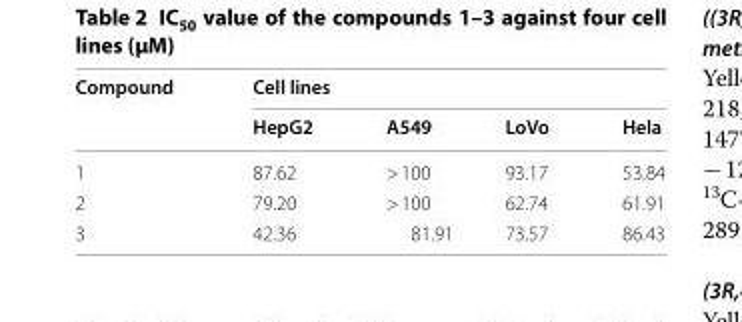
<table><thead><tr><td rowspan="2">Compound</td><td colspan="4">Cell lines</td></tr><tr><td>HepG2</td><td>A549</td><td>LoVo</td><td>Hela</td></tr></thead><tbody><tr><td>1</td><td>87.62</td><td>&gt; 100</td><td>93.17</td><td>53.84</td></tr><tr><td>2</td><td>79.20</td><td>&gt; 100</td><td>62.74</td><td>61.91</td></tr><tr><td>3</td><td>42.36</td><td>81.91</td><td>73.57</td><td>86.43</td></tr></tbody></table>